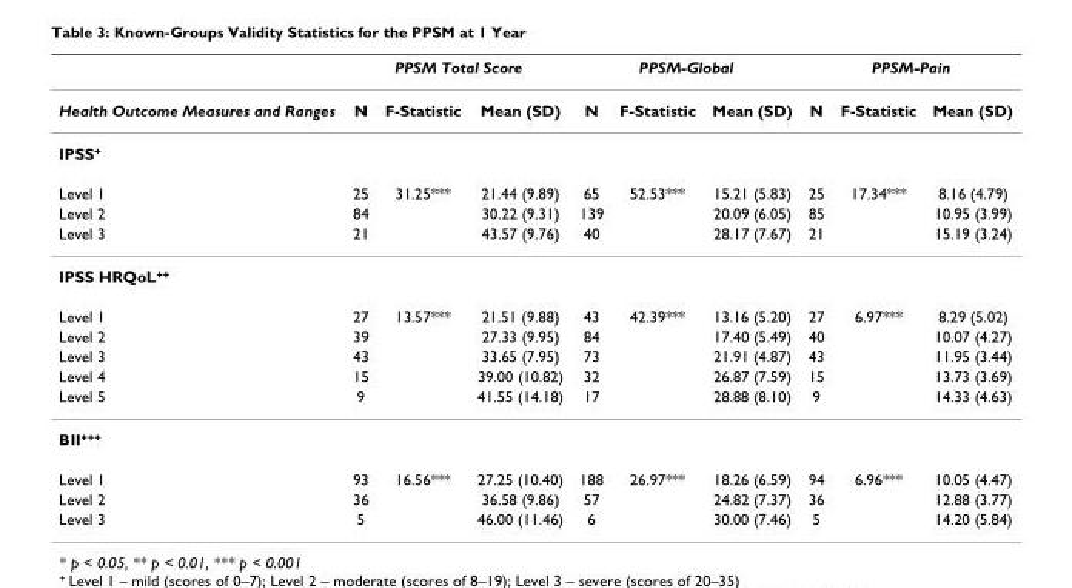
<table><thead><tr><td rowspan="2">Health Outcome Measures and Ranges</td><td colspan="3">PPSM Total Score</td><td colspan="3">PPSM-Global</td><td colspan="3">PPSM-Pain</td></tr><tr><td>N</td><td>F-Statistic</td><td>Mean (SD)</td><td>N</td><td>F-Statistic</td><td>Mean (SD)</td><td>N</td><td>F-Statistic</td><td>Mean (SD)</td></tr></thead><tbody><tr><td colspan="10">IPSS<sup>+</sup></td></tr><tr><td>Level 1</td><td>25</td><td>31.25***</td><td>21.44 (9.89)</td><td>65</td><td>52.53***</td><td>15.21 (5.83)</td><td>25</td><td>17.34***</td><td>8.16 (4.79)</td></tr><tr><td>Level 2</td><td>84</td><td></td><td>30.22 (9.31)</td><td>139</td><td></td><td>20.09 (6.05)</td><td>85</td><td></td><td>10.95 (3.99)</td></tr><tr><td>Level 3</td><td>21</td><td></td><td>43.57 (9.76)</td><td>40</td><td></td><td>28.17 (7.67)</td><td>21</td><td></td><td>15.19 (3.24)</td></tr><tr><td colspan="10">IPSS HRQoL<sup>++</sup></td></tr><tr><td>Level 1</td><td>27</td><td>13.57***</td><td>21.51 (9.88)</td><td>43</td><td>42.39***</td><td>13.16 (5.20)</td><td>27</td><td>6.97***</td><td>8.29 (5.02)</td></tr><tr><td>Level 2</td><td>39</td><td></td><td>27.33 (9.95)</td><td>84</td><td></td><td>17.40 (5.49)</td><td>40</td><td></td><td>10.07 (4.27)</td></tr><tr><td>Level 3</td><td>43</td><td></td><td>33.65 (7.95)</td><td>73</td><td></td><td>21.91 (4.87)</td><td>43</td><td></td><td>11.95 (3.44)</td></tr><tr><td>Level 4</td><td>15</td><td></td><td>39.00 (10.82)</td><td>32</td><td></td><td>26.87 (7.59)</td><td>15</td><td></td><td>13.73 (3.69)</td></tr><tr><td>Level 5</td><td>9</td><td></td><td>41.55 (14.18)</td><td>17</td><td></td><td>28.88 (8.10)</td><td>9</td><td></td><td>14.33 (4.63)</td></tr><tr><td colspan="10">BII<sup>+++</sup></td></tr><tr><td>Level 1</td><td>93</td><td>16.56***</td><td>27.25 (10.40)</td><td>188</td><td>26.97***</td><td>18.26 (6.59)</td><td>94</td><td>6.96***</td><td>10.05 (4.47)</td></tr><tr><td>Level 2</td><td>36</td><td></td><td>36.58 (9.86)</td><td>57</td><td></td><td>24.82 (7.37)</td><td>36</td><td></td><td>12.88 (3.77)</td></tr><tr><td>Level 3</td><td>5</td><td></td><td>46.00 (11.46)</td><td>6</td><td></td><td>30.00 (7.46)</td><td>5</td><td></td><td>14.20 (5.84)</td></tr></tbody></table>